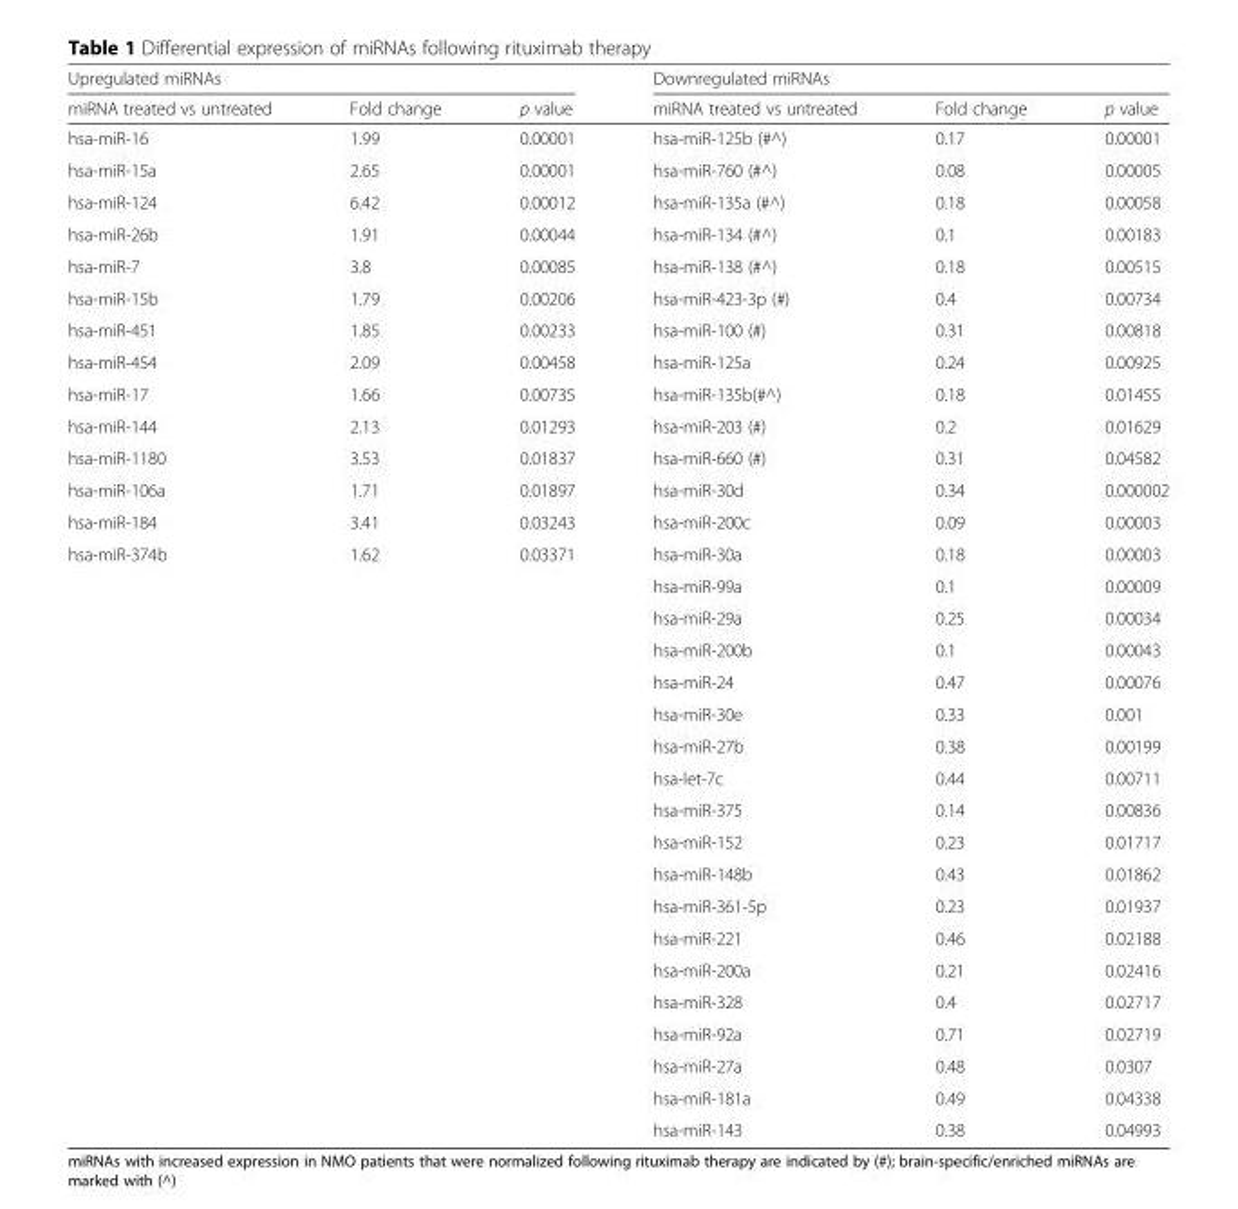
<table><thead><tr><td colspan="3">Upregulated miRNAs</td><td colspan="3">Downregulated miRNAs</td></tr><tr><td>miRNA treated vs untreated</td><td>Fold change</td><td>p value</td><td>miRNA treated vs untreated</td><td>Fold change</td><td>p value</td></tr></thead><tbody><tr><td>hsa-miR-16</td><td>1.99</td><td>0.00001</td><td>hsa-miR-125b (#^)</td><td>0.17</td><td>0.00001</td></tr><tr><td>hsa-miR-15a</td><td>2.65</td><td>0.00001</td><td>hsa-miR-760 (#^)</td><td>0.08</td><td>0.00005</td></tr><tr><td>hsa-miR-124</td><td>6.42</td><td>0.00012</td><td>hsa-miR-135a (#^)</td><td>0.18</td><td>0.00058</td></tr><tr><td>hsa-miR-26b</td><td>1.91</td><td>0.00044</td><td>hsa-miR-134 (#^)</td><td>0.1</td><td>0.00183</td></tr><tr><td>hsa-miR-7</td><td>3.8</td><td>0.00085</td><td>hsa-miR-138 (#^)</td><td>0.18</td><td>0.00515</td></tr><tr><td>hsa-miR-15b</td><td>1.79</td><td>0.00206</td><td>hsa-miR-423-3p (#)</td><td>0.4</td><td>0.00734</td></tr><tr><td>hsa-miR-451</td><td>1.85</td><td>0.00233</td><td>hsa-miR-100 (#)</td><td>0.31</td><td>0.00818</td></tr><tr><td>hsa-miR-454</td><td>2.09</td><td>0.00458</td><td>hsa-miR-125a</td><td>0.24</td><td>0.00925</td></tr><tr><td>hsa-miR-17</td><td>1.66</td><td>0.00735</td><td>hsa-miR-135b(#^)</td><td>0.18</td><td>0.01455</td></tr><tr><td>hsa-miR-144</td><td>2.13</td><td>0.01293</td><td>hsa-miR-203 (#)</td><td>0.2</td><td>0.01629</td></tr><tr><td>hsa-miR-1180</td><td>3.53</td><td>0.01837</td><td>hsa-miR-660 (#)</td><td>0.31</td><td>0.04582</td></tr><tr><td>hsa-miR-106a</td><td>1.71</td><td>0.01897</td><td>hsa-miR-30d</td><td>0.34</td><td>0.000002</td></tr><tr><td>hsa-miR-184</td><td>3.41</td><td>0.03243</td><td>hsa-miR-200c</td><td>0.09</td><td>0.00003</td></tr><tr><td rowspan="19">hsa-miR-374b</td><td>1.62</td><td>0.03371</td><td>hsa-miR-30a</td><td>0.18</td><td>0.00003</td></tr><tr><td></td><td></td><td>hsa-miR-99a</td><td>0.1</td><td>0.00009</td></tr><tr><td></td><td></td><td>hsa-miR-29a</td><td>0.25</td><td>0.00034</td></tr><tr><td></td><td></td><td>hsa-miR-200b</td><td>0.1</td><td>0.00043</td></tr><tr><td></td><td></td><td>hsa-miR-24</td><td>0.47</td><td>0.00076</td></tr><tr><td></td><td></td><td>hsa-miR-30e</td><td>0.33</td><td>0.001</td></tr><tr><td></td><td></td><td>hsa-miR-27b</td><td>0.38</td><td>0.00199</td></tr><tr><td></td><td></td><td>hsa-let-7c</td><td>0.44</td><td>0.00711</td></tr><tr><td></td><td></td><td>hsa-miR-375</td><td>0.14</td><td>0.00836</td></tr><tr><td></td><td></td><td>hsa-miR-152</td><td>0.23</td><td>0.01717</td></tr><tr><td></td><td></td><td>hsa-miR-148b</td><td>0.43</td><td>0.01862</td></tr><tr><td></td><td></td><td>hsa-miR-361-5p</td><td>0.23</td><td>0.01937</td></tr><tr><td></td><td></td><td>hsa-miR-221</td><td>0.46</td><td>0.02188</td></tr><tr><td></td><td></td><td>hsa-miR-200a</td><td>0.21</td><td>0.02416</td></tr><tr><td></td><td></td><td>hsa-miR-328</td><td>0.4</td><td>0.02717</td></tr><tr><td></td><td></td><td>hsa-miR-92a</td><td>0.71</td><td>0.02719</td></tr><tr><td></td><td></td><td>hsa-miR-27a</td><td>0.48</td><td>0.0307</td></tr><tr><td></td><td></td><td>hsa-miR-181a</td><td>0.49</td><td>0.04338</td></tr><tr><td></td><td></td><td>hsa-miR-143</td><td>0.38</td><td>0.04993</td></tr></tbody></table>